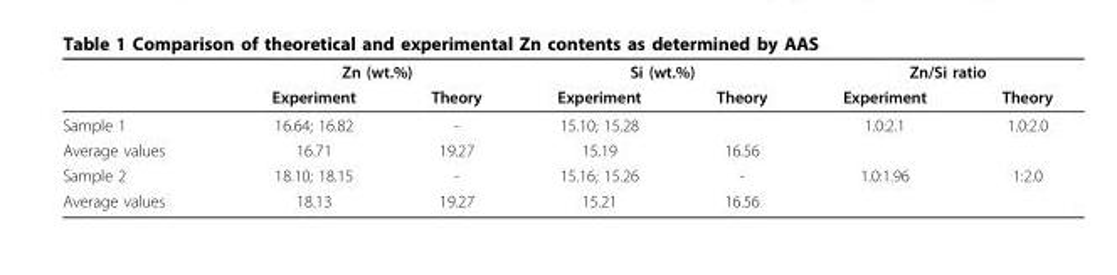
<table><thead><tr><td rowspan="2"></td><td colspan="2">Zn (wt.%)</td><td colspan="2">Si (wt.%)</td><td colspan="2">Zn/Si ratio</td></tr><tr><td>Experiment</td><td>Theory</td><td>Experiment</td><td>Theory</td><td>Experiment</td><td>Theory</td></tr></thead><tbody><tr><td>Sample 1</td><td>16.64; 16.82</td><td>-</td><td>15.10; 15.28</td><td></td><td>1.0:2.1</td><td>1.0:2.0</td></tr><tr><td>Average values</td><td>16.71</td><td>19.27</td><td>15.19</td><td>16.56</td><td></td><td></td></tr><tr><td>Sample 2</td><td>18.10; 18.15</td><td>-</td><td>15.16; 15.26</td><td>-</td><td>1.0:1.96</td><td>1:2.0</td></tr><tr><td>Average values</td><td>18.13</td><td>19.27</td><td>15.21</td><td>16.56</td><td></td><td></td></tr></tbody></table>